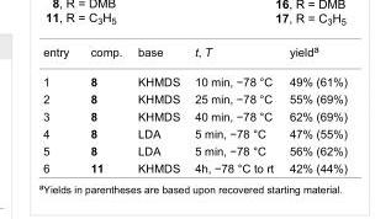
<table><tbody><tr><td>entry</td><td>comp.</td><td>base</td><td>t, T</td><td>yield<sup>a</sup></td></tr><tr><td>1</td><td>8</td><td>KHMDS</td><td>10 min, −78 °C</td><td>49% (61%)</td></tr><tr><td>2</td><td>8</td><td>KHMDS</td><td>25 min, −78 °C</td><td>55% (69%)</td></tr><tr><td>3</td><td>8</td><td>KHMDS</td><td>40 min, −78 °C</td><td>62% (69%)</td></tr><tr><td>4</td><td>8</td><td>LDA</td><td>5 min, −78 °C</td><td>47% (55%)</td></tr><tr><td>5</td><td>8</td><td>LDA</td><td>5 min, −78 °C</td><td>56% (62%)</td></tr><tr><td>6</td><td>11</td><td>KHMDS</td><td>4h, −78 °C to rt</td><td>42% (44%)</td></tr></tbody></table>